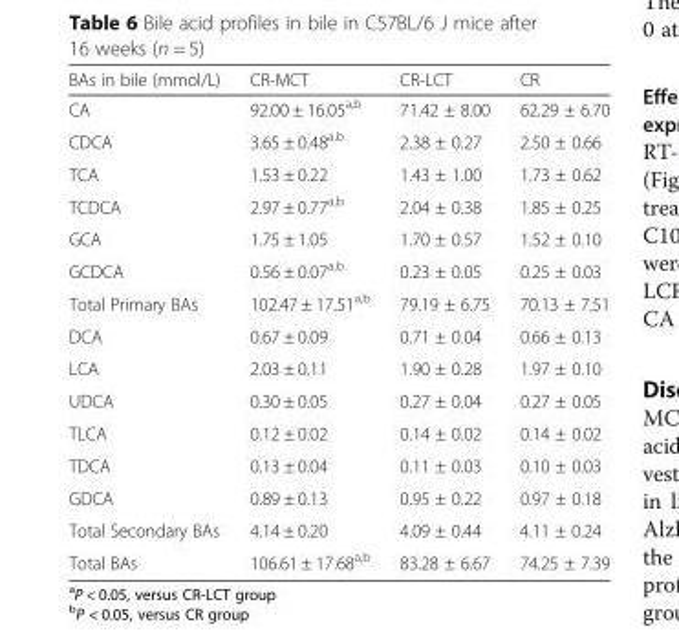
<table><thead><tr><td>BAs in bile (mmol/L)</td><td>CR-MCT</td><td>CR-LCT</td><td>CR</td></tr></thead><tbody><tr><td>CA</td><td>92.00 ± 16.05<sup>a,b</sup></td><td>71.42 ± 8.00</td><td>62.29 ± 6.70</td></tr><tr><td>CDCA</td><td>3.65 ± 0.48<sup>a,b</sup></td><td>2.38 ± 0.27</td><td>2.50 ± 0.66</td></tr><tr><td>TCA</td><td>1.53 ± 0.22</td><td>1.43 ± 1.00</td><td>1.73 ± 0.62</td></tr><tr><td>TCDCA</td><td>2.97 ± 0.77<sup>a,b</sup></td><td>2.04 ± 0.38</td><td>1.85 ± 0.25</td></tr><tr><td>GCA</td><td>1.75 ± 1.05</td><td>1.70 ± 0.57</td><td>1.52 ± 0.10</td></tr><tr><td>GCDCA</td><td>0.56 ± 0.07<sup>a,b</sup></td><td>0.23 ± 0.05</td><td>0.25 ± 0.03</td></tr><tr><td>Total Primary BAs</td><td>102.47 ± 17.51<sup>a,b</sup></td><td>79.19 ± 6.75</td><td>70.13 ± 7.51</td></tr><tr><td>DCA</td><td>0.67 ± 0.09</td><td>0.71 ± 0.04</td><td>0.66 ± 0.13</td></tr><tr><td>LCA</td><td>2.03 ± 0.11</td><td>1.90 ± 0.28</td><td>1.97 ± 0.10</td></tr><tr><td>UDCA</td><td>0.30 ± 0.05</td><td>0.27 ± 0.04</td><td>0.27 ± 0.05</td></tr><tr><td>TLCA</td><td>0.12 ± 0.02</td><td>0.14 ± 0.02</td><td>0.14 ± 0.02</td></tr><tr><td>TDCA</td><td>0.13 ± 0.04</td><td>0.11 ± 0.03</td><td>0.10 ± 0.03</td></tr><tr><td>GDCA</td><td>0.89 ± 0.13</td><td>0.95 ± 0.22</td><td>0.97 ± 0.18</td></tr><tr><td>Total Secondary BAs</td><td>4.14 ± 0.20</td><td>4.09 ± 0.44</td><td>4.11 ± 0.24</td></tr><tr><td>Total BAs</td><td>106.61 ± 17.68<sup>a,b</sup></td><td>83.28 ± 6.67</td><td>74.25 ± 7.39</td></tr></tbody></table>